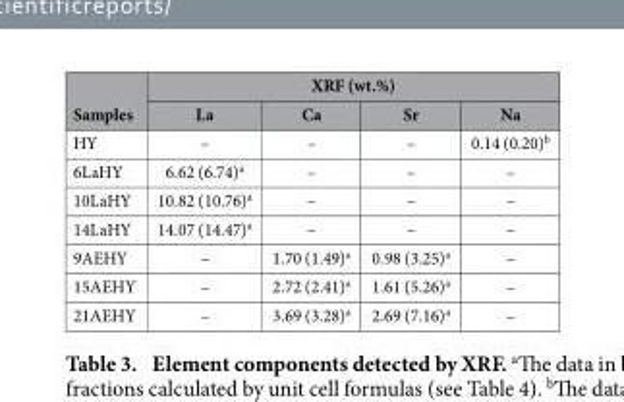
<table><thead><tr><td rowspan="2">Samples</td><td colspan="4">XRF (wt.%)</td></tr><tr><td>La</td><td>Ca</td><td>Sr</td><td>Na</td></tr></thead><tbody><tr><td>HY</td><td>–</td><td>–</td><td>–</td><td>0.14 (0.20)<sup>b</sup></td></tr><tr><td>6LaHY</td><td>6.62 (6.74)<sup>a</sup></td><td>–</td><td>–</td><td>–</td></tr><tr><td>10LaHY</td><td>10.82 (10.76)<sup>a</sup></td><td>–</td><td>–</td><td>–</td></tr><tr><td>14LaHY</td><td>14.07 (14.47)<sup>a</sup></td><td>–</td><td>–</td><td>–</td></tr><tr><td>9AEHY</td><td>–</td><td>1.70 (1.49)<sup>a</sup></td><td>0.98 (3.25)<sup>a</sup></td><td>–</td></tr><tr><td>15AEHY</td><td>–</td><td>2.72 (2.41)<sup>a</sup></td><td>1.61 (5.26)<sup>a</sup></td><td>–</td></tr><tr><td>21AEHY</td><td>–</td><td>3.69 (3.28)<sup>a</sup></td><td>2.69 (7.16)<sup>a</sup></td><td>–</td></tr></tbody></table>